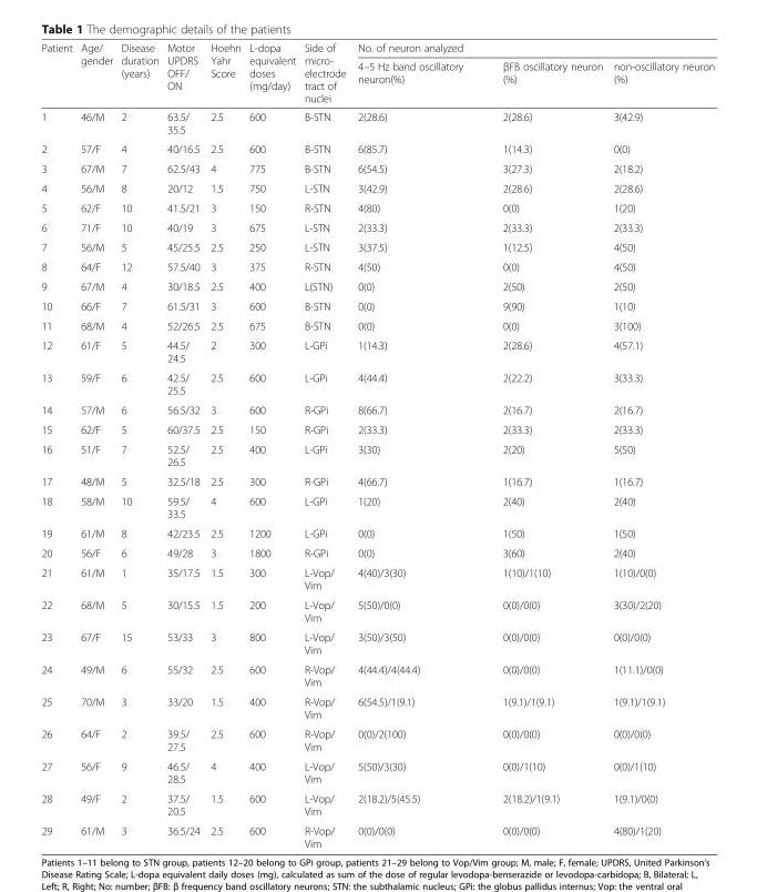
<table><thead><tr><td rowspan="2">Patient</td><td rowspan="2">Age/ gender</td><td rowspan="2">Disease duration (years)</td><td rowspan="2">Motor UPDRS OFF/ ON</td><td rowspan="2">Hoehn Yahr Score</td><td rowspan="2">L-dopa equivalent doses (mg/day)</td><td rowspan="2">Side of micro- electrode tract of nuclei</td><td colspan="3">No. of neuron analyzed</td></tr><tr><td>4–5 Hz band oscillatory neuron(%)</td><td>βFB oscillatory neuron (%)</td><td>non-oscillatory neuron (%)</td></tr></thead><tbody><tr><td>1</td><td>46/M</td><td>2</td><td>63.5/ 35.5</td><td>2.5</td><td>600</td><td>B-STN</td><td>2(28.6)</td><td>2(28.6)</td><td>3(42.9)</td></tr><tr><td>2</td><td>57/F</td><td>4</td><td>40/16.5</td><td>2.5</td><td>600</td><td>B-STN</td><td>6(85.7)</td><td>1(14.3)</td><td>0(0)</td></tr><tr><td>3</td><td>67/M</td><td>7</td><td>62.5/43</td><td>4</td><td>775</td><td>B-STN</td><td>6(54.5)</td><td>3(27.3)</td><td>2(18.2)</td></tr><tr><td>4</td><td>56/M</td><td>8</td><td>20/12</td><td>1.5</td><td>750</td><td>L-STN</td><td>3(42.9)</td><td>2(28.6)</td><td>2(28.6)</td></tr><tr><td>5</td><td>62/F</td><td>10</td><td>41.5/21</td><td>3</td><td>150</td><td>R-STN</td><td>4(80)</td><td>0(0)</td><td>1(20)</td></tr><tr><td>6</td><td>71/F</td><td>10</td><td>40/19</td><td>3</td><td>675</td><td>L-STN</td><td>2(33.3)</td><td>2(33.3)</td><td>2(33.3)</td></tr><tr><td>7</td><td>56/M</td><td>5</td><td>45/25.5</td><td>2.5</td><td>250</td><td>L-STN</td><td>3(37.5)</td><td>1(12.5)</td><td>4(50)</td></tr><tr><td>8</td><td>64/F</td><td>12</td><td>57.5/40</td><td>3</td><td>375</td><td>R-STN</td><td>4(50)</td><td>0(0)</td><td>4(50)</td></tr><tr><td>9</td><td>67/M</td><td>4</td><td>30/18.5</td><td>2.5</td><td>400</td><td>L(STN)</td><td>0(0)</td><td>2(50)</td><td>2(50)</td></tr><tr><td>10</td><td>66/F</td><td>7</td><td>61.5/31</td><td>3</td><td>600</td><td>B-STN</td><td>0(0)</td><td>9(90)</td><td>1(10)</td></tr><tr><td>11</td><td>68/M</td><td>4</td><td>52/26.5</td><td>2.5</td><td>675</td><td>B-STN</td><td>0(0)</td><td>0(0)</td><td>3(100)</td></tr><tr><td>12</td><td>61/F</td><td>5</td><td>44.5/ 24.5</td><td>2</td><td>300</td><td>L-GPi</td><td>1(14.3)</td><td>2(28.6)</td><td>4(57.1)</td></tr><tr><td>13</td><td>59/F</td><td>6</td><td>42.5/ 25.5</td><td>2.5</td><td>600</td><td>L-GPi</td><td>4(44.4)</td><td>2(22.2)</td><td>3(33.3)</td></tr><tr><td>14</td><td>57/M</td><td>6</td><td>56.5/32</td><td>3</td><td>600</td><td>R-GPi</td><td>8(66.7)</td><td>2(16.7)</td><td>2(16.7)</td></tr><tr><td>15</td><td>62/F</td><td>5</td><td>60/37.5</td><td>2.5</td><td>150</td><td>R-GPi</td><td>2(33.3)</td><td>2(33.3)</td><td>2(33.3)</td></tr><tr><td>16</td><td>51/F</td><td>7</td><td>52.5/ 26.5</td><td>2.5</td><td>400</td><td>L-GPi</td><td>3(30)</td><td>2(20)</td><td>5(50)</td></tr><tr><td>17</td><td>48/M</td><td>5</td><td>32.5/18</td><td>2.5</td><td>300</td><td>R-GPi</td><td>4(66.7)</td><td>1(16.7)</td><td>1(16.7)</td></tr><tr><td>18</td><td>58/M</td><td>10</td><td>59.5/ 33.5</td><td>4</td><td>600</td><td>L-GPi</td><td>1(20)</td><td>2(40)</td><td>2(40)</td></tr><tr><td>19</td><td>61/M</td><td>8</td><td>42/23.5</td><td>2.5</td><td>1200</td><td>L-GPi</td><td>0(0)</td><td>1(50)</td><td>1(50)</td></tr><tr><td>20</td><td>56/F</td><td>6</td><td>49/28</td><td>3</td><td>1800</td><td>R-GPi</td><td>0(0)</td><td>3(60)</td><td>2(40)</td></tr><tr><td>21</td><td>61/M</td><td>1</td><td>35/17.5</td><td>1.5</td><td>300</td><td>L-Vop/ Vim</td><td>4(40)/3(30)</td><td>1(10)/1(10)</td><td>1(10)/0(0)</td></tr><tr><td>22</td><td>68/M</td><td>5</td><td>30/15.5</td><td>1.5</td><td>200</td><td>L-Vop/ Vim</td><td>5(50)/0(0)</td><td>0(0)/0(0)</td><td>3(30)/2(20)</td></tr><tr><td>23</td><td>67/F</td><td>15</td><td>53/33</td><td>3</td><td>800</td><td>L-Vop/ Vim</td><td>3(50)/3(50)</td><td>0(0)/0(0)</td><td>0(0)/0(0)</td></tr><tr><td>24</td><td>49/M</td><td>6</td><td>55/32</td><td>2.5</td><td>600</td><td>R-Vop/ Vim</td><td>4(44.4)/4(44.4)</td><td>0(0)/0(0)</td><td>1(11.1)/0(0)</td></tr><tr><td>25</td><td>70/M</td><td>3</td><td>33/20</td><td>1.5</td><td>400</td><td>R-Vop/ Vim</td><td>6(54.5)/1(9.1)</td><td>1(9.1)/1(9.1)</td><td>1(9.1)/1(9.1)</td></tr><tr><td>26</td><td>64/F</td><td>2</td><td>39.5/ 27.5</td><td>2.5</td><td>600</td><td>R-Vop/ Vim</td><td>0(0)/2(100)</td><td>0(0)/0(0)</td><td>0(0)/0(0)</td></tr><tr><td>27</td><td>56/F</td><td>9</td><td>46.5/ 28.5</td><td>4</td><td>400</td><td>L-Vop/ Vim</td><td>5(50)/3(30)</td><td>0(0)/1(10)</td><td>0(0)/1(10)</td></tr><tr><td>28</td><td>49/F</td><td>2</td><td>37.5/ 20.5</td><td>1.5</td><td>600</td><td>L-Vop/ Vim</td><td>2(18.2)/5(45.5)</td><td>2(18.2)/1(9.1)</td><td>1(9.1)/0(0)</td></tr><tr><td>29</td><td>61/M</td><td>3</td><td>36.5/24</td><td>2.5</td><td>600</td><td>R-Vop/ Vim</td><td>0(0)/0(0)</td><td>0(0)/0(0)</td><td>4(80)/1(20)</td></tr></tbody></table>